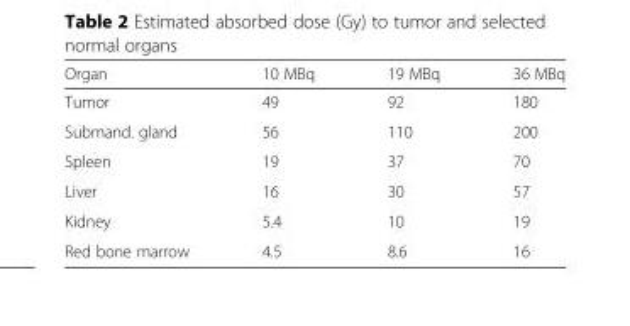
<table><thead><tr><td>Organ</td><td>10 MBq</td><td>19 MBq</td><td>36 MBq</td></tr></thead><tbody><tr><td>Tumor</td><td>49</td><td>92</td><td>180</td></tr><tr><td>Submand. gland</td><td>56</td><td>110</td><td>200</td></tr><tr><td>Spleen</td><td>19</td><td>37</td><td>70</td></tr><tr><td>Liver</td><td>16</td><td>30</td><td>57</td></tr><tr><td>Kidney</td><td>5.4</td><td>10</td><td>19</td></tr><tr><td>Red bone marrow</td><td>4.5</td><td>8.6</td><td>16</td></tr></tbody></table>